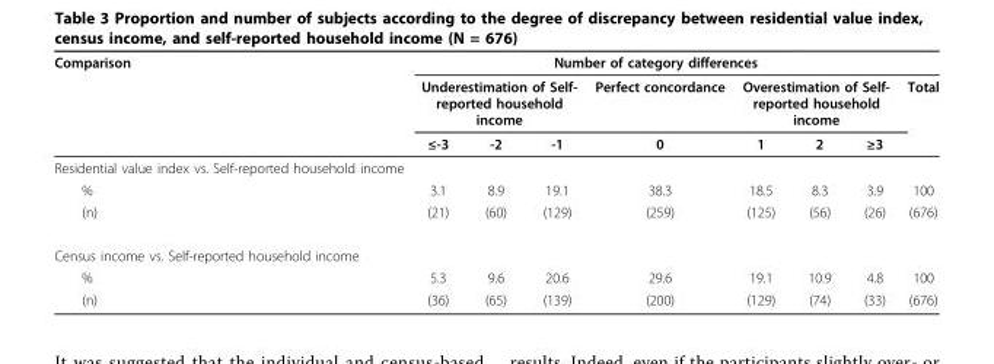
<table><thead><tr><td rowspan="3">Comparison</td><td colspan="7">Number of category differences</td><td rowspan="3">Total</td></tr><tr><td colspan="3">Underestimation of Self- reported household income</td><td rowspan="2">Perfect concordance 0</td><td colspan="3">Overestimation of Self- reported household income</td></tr><tr><td>≤-3</td><td>-2</td><td>-1</td><td>1</td><td>2</td><td>≥3</td></tr></thead><tbody><tr><td colspan="9">Residential value index vs. Self-reported household income</td></tr><tr><td>%</td><td>3.1</td><td>8.9</td><td>19.1</td><td>38.3</td><td>18.5</td><td>8.3</td><td>3.9</td><td>100</td></tr><tr><td>(n)</td><td>(21)</td><td>(60)</td><td>(129)</td><td>(259)</td><td>(125)</td><td>(56)</td><td>(26)</td><td>(676)</td></tr><tr><td colspan="9">Census income vs. Self-reported household income</td></tr><tr><td>%</td><td>5.3</td><td>9.6</td><td>20.6</td><td>29.6</td><td>19.1</td><td>10.9</td><td>4.8</td><td>100</td></tr><tr><td>(n)</td><td>(36)</td><td>(65)</td><td>(139)</td><td>(200)</td><td>(129)</td><td>(74)</td><td>(33)</td><td>(676)</td></tr></tbody></table>